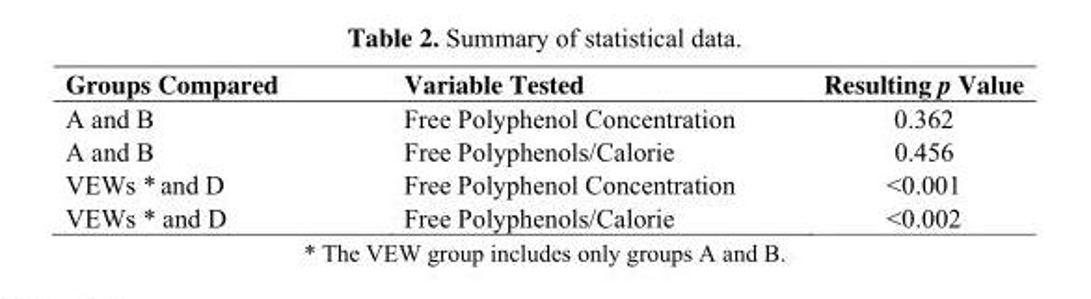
<table><thead><tr><td>Groups Compared</td><td>Variable Tested</td><td>Resulting p Value</td></tr></thead><tbody><tr><td>A and B</td><td>Free Polyphenol Concentration</td><td>0.362</td></tr><tr><td>A and B</td><td>Free Polyphenols/Calorie</td><td>0.456</td></tr><tr><td>VEWs * and D</td><td>Free Polyphenol Concentration</td><td>&lt;0.001</td></tr><tr><td>VEWs * and D</td><td>Free Polyphenols/Calorie</td><td>&lt;0.002</td></tr></tbody></table>